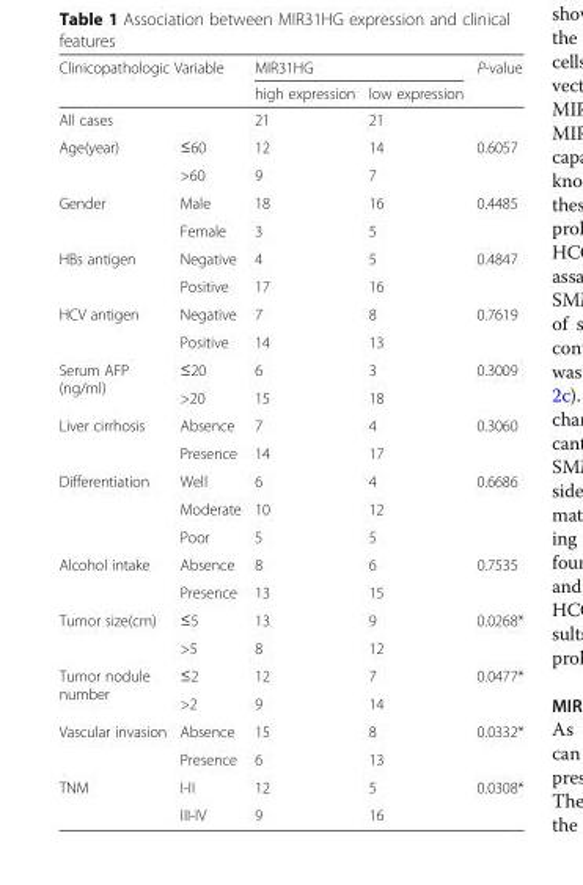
<table><thead><tr><td rowspan="2" colspan="2">Clinicopathologic Variable</td><td colspan="2">MIR31HG</td><td rowspan="3">P-value</td></tr><tr><td rowspan="2">high expression 21</td><td rowspan="2">low expression 21</td></tr><tr><td>All cases</td><td></td></tr></thead><tbody><tr><td rowspan="2">Age(year)</td><td>≤60</td><td>12</td><td>14</td><td rowspan="2">0.6057</td></tr><tr><td>&gt;60</td><td>9</td><td>7</td></tr><tr><td rowspan="2">Gender</td><td>Male</td><td>18</td><td>16</td><td rowspan="2">0.4485</td></tr><tr><td>Female</td><td>3</td><td>5</td></tr><tr><td rowspan="2">HBs antigen</td><td>Negative</td><td>4</td><td>5</td><td rowspan="2">0.4847</td></tr><tr><td>Positive</td><td>17</td><td>16</td></tr><tr><td rowspan="2">HCV antigen</td><td>Negative</td><td>7</td><td>8</td><td rowspan="2">0.7619</td></tr><tr><td>Positive</td><td>14</td><td>13</td></tr><tr><td rowspan="2">Serum AFP (ng/ml)</td><td>≤20</td><td>6</td><td>3</td><td rowspan="2">0.3009</td></tr><tr><td>&gt;20</td><td>15</td><td>18</td></tr><tr><td rowspan="2">Liver cirrhosis</td><td>Absence</td><td>7</td><td>4</td><td rowspan="2">0.3060</td></tr><tr><td>Presence</td><td>14</td><td>17</td></tr><tr><td rowspan="3">Differentiation</td><td>Well</td><td>6</td><td>4</td><td rowspan="3">0.6686</td></tr><tr><td>Moderate</td><td>10</td><td>12</td></tr><tr><td>Poor</td><td>5</td><td>5</td></tr><tr><td rowspan="2">Alcohol intake</td><td>Absence</td><td>8</td><td>6</td><td rowspan="2">0.7535</td></tr><tr><td>Presence</td><td>13</td><td>15</td></tr><tr><td rowspan="2">Tumor size(cm)</td><td>≤5</td><td>13</td><td>9</td><td rowspan="2">0.0268*</td></tr><tr><td>&gt;5</td><td>8</td><td>12</td></tr><tr><td rowspan="2">Tumor nodule number</td><td>≤2</td><td>12</td><td>7</td><td rowspan="2">0.0477*</td></tr><tr><td>&gt;2</td><td>9</td><td>14</td></tr><tr><td rowspan="2">Vascular invasion</td><td>Absence</td><td>15</td><td>8</td><td rowspan="2">0.0332*</td></tr><tr><td>Presence</td><td>6</td><td>13</td></tr><tr><td rowspan="2">TNM</td><td>I-II</td><td>12</td><td>5</td><td rowspan="2">0.0308*</td></tr><tr><td>III-IV</td><td>9</td><td>16</td></tr></tbody></table>